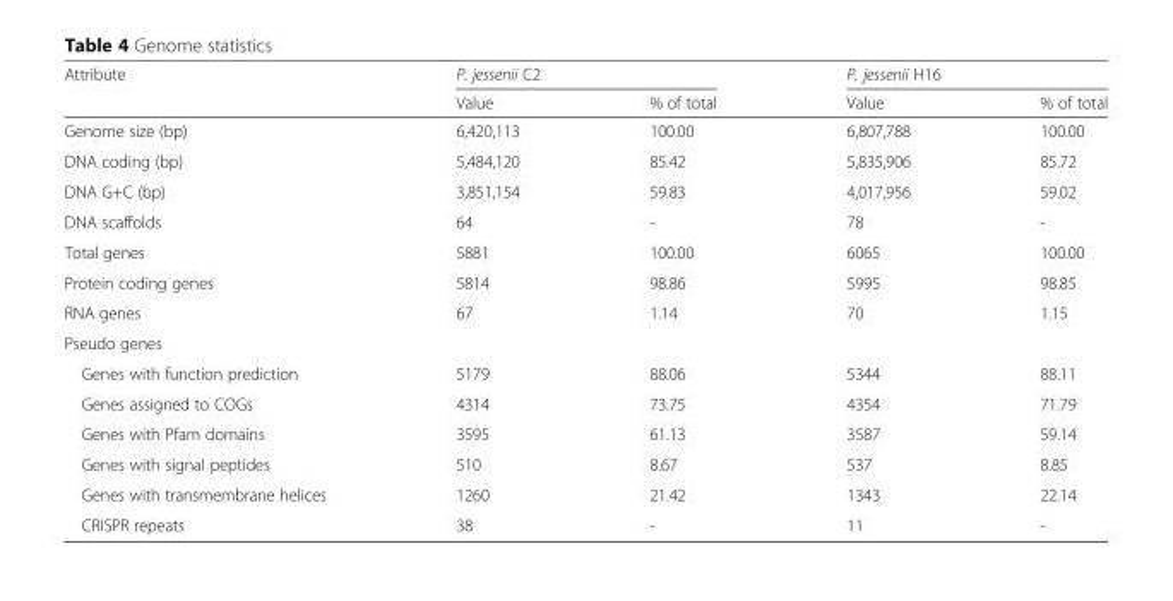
<table><thead><tr><td rowspan="2">Attribute</td><td colspan="2">P. jessenii C2</td><td colspan="2">P. jessenii H16</td></tr><tr><td>Value</td><td>% of total</td><td>Value</td><td>% of total</td></tr></thead><tbody><tr><td>Genome size (bp)</td><td>6,420,113</td><td>100.00</td><td>6,807,788</td><td>100.00</td></tr><tr><td>DNA coding (bp)</td><td>5,484,120</td><td>85.42</td><td>5,835,906</td><td>85.72</td></tr><tr><td>DNA G+C (bp)</td><td>3,851,154</td><td>59.83</td><td>4,017,956</td><td>59.02</td></tr><tr><td>DNA scaffolds</td><td>64</td><td>-</td><td>78</td><td>-</td></tr><tr><td>Total genes</td><td>5881</td><td>100.00</td><td>6065</td><td>100.00</td></tr><tr><td>Protein coding genes</td><td>5814</td><td>98.86</td><td>5995</td><td>98.85</td></tr><tr><td>RNA genes</td><td>67</td><td>1.14</td><td>70</td><td>1.15</td></tr><tr><td colspan="5">Pseudo genes</td></tr><tr><td>Genes with function prediction</td><td>5179</td><td>88.06</td><td>5344</td><td>88.11</td></tr><tr><td>Genes assigned to COGs</td><td>4314</td><td>73.75</td><td>4354</td><td>71.79</td></tr><tr><td>Genes with Pfam domains</td><td>3595</td><td>61.13</td><td>3587</td><td>59.14</td></tr><tr><td>Genes with signal peptides</td><td>510</td><td>8.67</td><td>537</td><td>8.85</td></tr><tr><td>Genes with transmembrane helices</td><td>1260</td><td>21.42</td><td>1343</td><td>22.14</td></tr><tr><td>CRISPR repeats</td><td>38</td><td>-</td><td>11</td><td>-</td></tr></tbody></table>